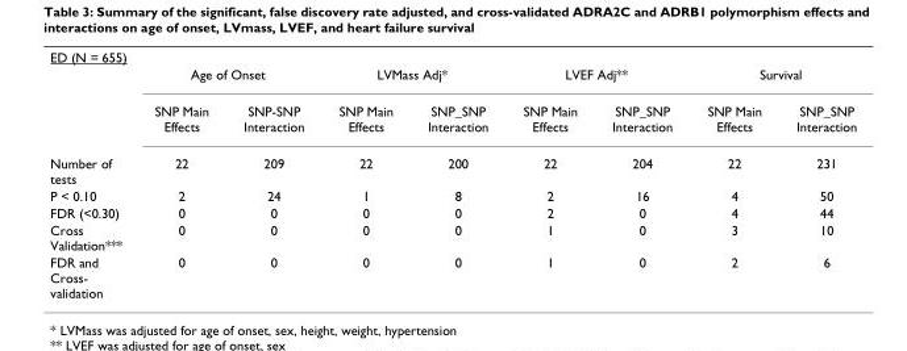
<table><tbody><tr><td colspan="9">ED (N = 655)</td></tr><tr><td></td><td colspan="2">Age of Onset</td><td colspan="2">LVMass Adj*</td><td colspan="2">LVEF Adj**</td><td colspan="2">Survival</td></tr><tr><td></td><td>SNP Main Effects</td><td>SNP-SNP Interaction</td><td>SNP Main Effects</td><td>SNP_SNP Interaction</td><td>SNP Main Effects</td><td>SNP_SNP Interaction</td><td>SNP Main Effects</td><td>SNP_SNP Interaction</td></tr><tr><td>Number of tests</td><td>22</td><td>209</td><td>22</td><td>200</td><td>22</td><td>204</td><td>22</td><td>231</td></tr><tr><td>P &lt; 0.10</td><td>2</td><td>24</td><td>1</td><td>8</td><td>2</td><td>16</td><td>4</td><td>50</td></tr><tr><td>FDR (&lt;0.30)</td><td>0</td><td>0</td><td>0</td><td>0</td><td>2</td><td>0</td><td>4</td><td>44</td></tr><tr><td>Cross Validation***</td><td>0</td><td>0</td><td>0</td><td>0</td><td>1</td><td>0</td><td>3</td><td>10</td></tr><tr><td>FDR and Cross- validation</td><td>0</td><td>0</td><td>0</td><td>0</td><td>1</td><td>0</td><td>2</td><td>6</td></tr></tbody></table>